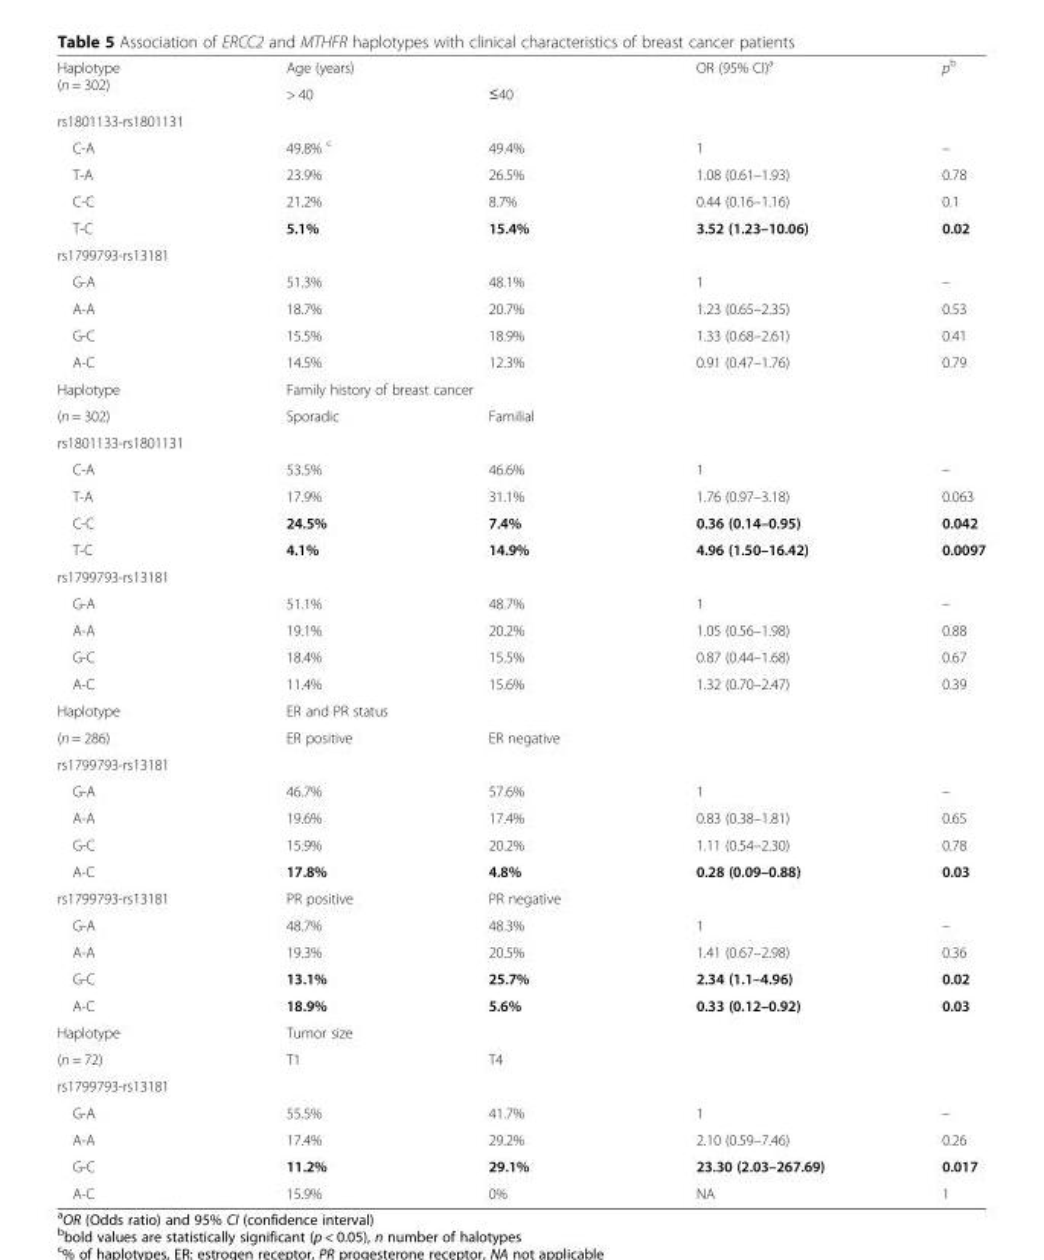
<table><tbody><tr><td rowspan="2">Haplotype (n = 302)</td><td colspan="2">Age (years)</td><td rowspan="2">OR (95% CI)<sup>a</sup></td><td rowspan="2">p<sup>b</sup></td></tr><tr><td>&gt; 40</td><td>≤40</td></tr><tr><td colspan="5">rs1801133-rs1801131</td></tr><tr><td>C-A</td><td>49.8% <sup>c</sup></td><td>49.4%</td><td>1</td><td>–</td></tr><tr><td>T-A</td><td>23.9%</td><td>26.5%</td><td>1.08 (0.61–1.93)</td><td>0.78</td></tr><tr><td>C-C</td><td>21.2%</td><td>8.7%</td><td>0.44 (0.16–1.16)</td><td>0.1</td></tr><tr><td>T-C</td><td>5.1%</td><td>15.4%</td><td>3.52 (1.23–10.06)</td><td>0.02</td></tr><tr><td colspan="5">rs1799793-rs13181</td></tr><tr><td>G-A</td><td>51.3%</td><td>48.1%</td><td>1</td><td>–</td></tr><tr><td>A-A</td><td>18.7%</td><td>20.7%</td><td>1.23 (0.65–2.35)</td><td>0.53</td></tr><tr><td>G-C</td><td>15.5%</td><td>18.9%</td><td>1.33 (0.68–2.61)</td><td>0.41</td></tr><tr><td>A-C</td><td>14.5%</td><td>12.3%</td><td>0.91 (0.47–1.76)</td><td>0.79</td></tr><tr><td>Haplotype</td><td colspan="2">Family history of breast cancer</td><td></td><td></td></tr><tr><td>(n = 302)</td><td>Sporadic</td><td>Familial</td><td></td><td></td></tr><tr><td colspan="5">rs1801133-rs1801131</td></tr><tr><td>C-A</td><td>53.5%</td><td>46.6%</td><td>1</td><td>–</td></tr><tr><td>T-A</td><td>17.9%</td><td>31.1%</td><td>1.76 (0.97–3.18)</td><td>0.063</td></tr><tr><td>C-C</td><td>24.5%</td><td>7.4%</td><td>0.36 (0.14–0.95)</td><td>0.042</td></tr><tr><td>T-C</td><td>4.1%</td><td>14.9%</td><td>4.96 (1.50–16.42)</td><td>0.0097</td></tr><tr><td colspan="5">rs1799793-rs13181</td></tr><tr><td>G-A</td><td>51.1%</td><td>48.7%</td><td>1</td><td>–</td></tr><tr><td>A-A</td><td>19.1%</td><td>20.2%</td><td>1.05 (0.56–1.98)</td><td>0.88</td></tr><tr><td>G-C</td><td>18.4%</td><td>15.5%</td><td>0.87 (0.44–1.68)</td><td>0.67</td></tr><tr><td>A-C</td><td>11.4%</td><td>15.6%</td><td>1.32 (0.70–2.47)</td><td>0.39</td></tr><tr><td>Haplotype</td><td colspan="2">ER and PR status</td><td></td><td></td></tr><tr><td>(n = 286)</td><td>ER positive</td><td>ER negative</td><td></td><td></td></tr><tr><td colspan="5">rs1799793-rs13181</td></tr><tr><td>G-A</td><td>46.7%</td><td>57.6%</td><td>1</td><td>–</td></tr><tr><td>A-A</td><td>19.6%</td><td>17.4%</td><td>0.83 (0.38–1.81)</td><td>0.65</td></tr><tr><td>G-C</td><td>15.9%</td><td>20.2%</td><td>1.11 (0.54–2.30)</td><td>0.78</td></tr><tr><td>A-C</td><td>17.8%</td><td>4.8%</td><td>0.28 (0.09–0.88)</td><td>0.03</td></tr><tr><td>rs1799793-rs13181</td><td>PR positive</td><td>PR negative</td><td></td><td></td></tr><tr><td>G-A</td><td>48.7%</td><td>48.3%</td><td>1</td><td>–</td></tr><tr><td>A-A</td><td>19.3%</td><td>20.5%</td><td>1.41 (0.67–2.98)</td><td>0.36</td></tr><tr><td>G-C</td><td>13.1%</td><td>25.7%</td><td>2.34 (1.1–4.96)</td><td>0.02</td></tr><tr><td>A-C</td><td>18.9%</td><td>5.6%</td><td>0.33 (0.12–0.92)</td><td>0.03</td></tr><tr><td>Haplotype</td><td colspan="2">Tumor size</td><td></td><td></td></tr><tr><td>(n = 72)</td><td>T1</td><td>T4</td><td></td><td></td></tr><tr><td colspan="5">rs1799793-rs13181</td></tr><tr><td>G-A</td><td>55.5%</td><td>41.7%</td><td>1</td><td>–</td></tr><tr><td>A-A</td><td>17.4%</td><td>29.2%</td><td>2.10 (0.59–7.46)</td><td>0.26</td></tr><tr><td>G-C</td><td>11.2%</td><td>29.1%</td><td>23.30 (2.03–267.69)</td><td>0.017</td></tr><tr><td>A-C</td><td>15.9%</td><td>0%</td><td>NA</td><td>1</td></tr></tbody></table>